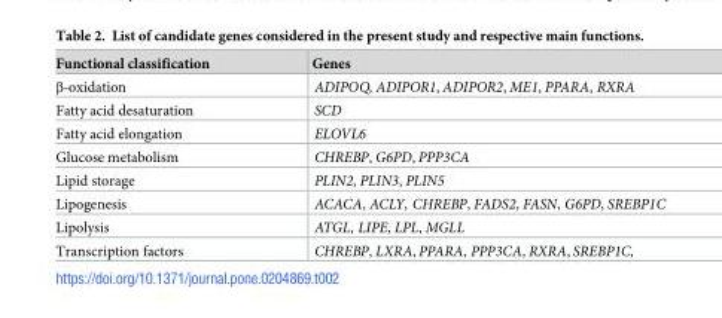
<table><thead><tr><td>Functional classification</td><td>Genes</td></tr></thead><tbody><tr><td>β-oxidation</td><td>ADIPOQ, ADIPOR1, ADIPOR2, ME1, PPARA, RXRA</td></tr><tr><td>Fatty acid desaturation</td><td>SCD</td></tr><tr><td>Fatty acid elongation</td><td>ELOVL6</td></tr><tr><td>Glucose metabolism</td><td>CHREBP, G6PD, PPP3CA</td></tr><tr><td>Lipid storage</td><td>PLIN2, PLIN3, PLIN5</td></tr><tr><td>Lipogenesis</td><td>ACACA, ACLY, CHREBP, FADS2, FASN, G6PD, SREBP1C</td></tr><tr><td>Lipolysis</td><td>ATGL, LIPE, LPL, MGLL</td></tr><tr><td>Transcription factors</td><td>CHREBP, LXRA, PPARA, PPP3CA, RXRA, SREBP1C,</td></tr></tbody></table>